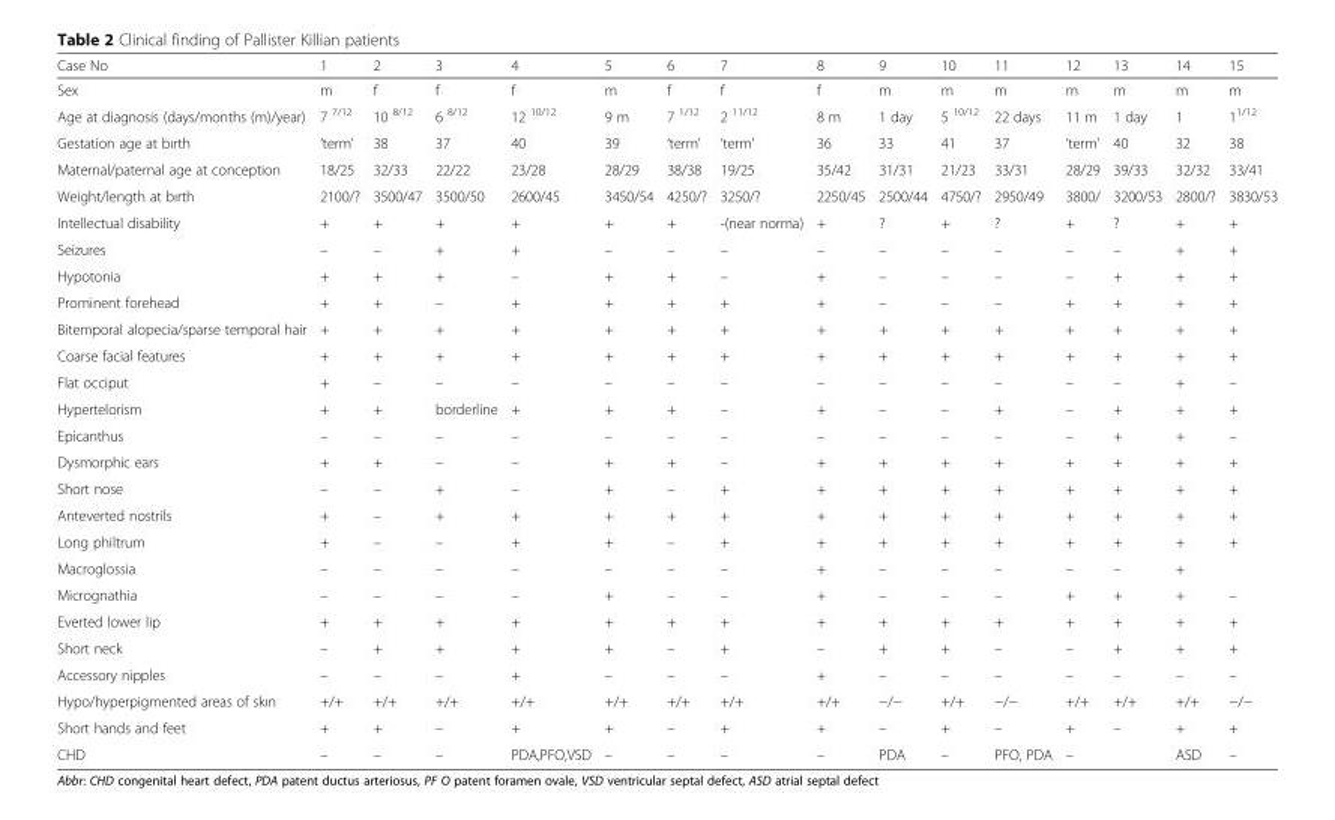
<table><thead><tr><td>Case No</td><td>1</td><td>2</td><td>3</td><td>4</td><td>5</td><td>6</td><td>7</td><td>8</td><td>9</td><td>10</td><td>11</td><td>12</td><td>13</td><td>14</td><td>15</td></tr></thead><tbody><tr><td>Sex</td><td>m</td><td>f</td><td>f</td><td>f</td><td>m</td><td>f</td><td>f</td><td>f</td><td>m</td><td>m</td><td>m</td><td>m</td><td>m</td><td>m</td><td>m</td></tr><tr><td>Age at diagnosis (days/months (m)/year)</td><td>7 <sup>7/12</sup></td><td>10 <sup>8/12</sup></td><td>6 <sup>8/12</sup></td><td>12 <sup>10/12</sup></td><td>9 m</td><td>7 <sup>1/12</sup></td><td>2 <sup>11/12</sup></td><td>8 m</td><td>1 day</td><td>5 <sup>10/12</sup></td><td>22 days</td><td>11 m</td><td>1 day</td><td>1</td><td>1<sup>1/12</sup></td></tr><tr><td>Gestation age at bırth</td><td>‘term’</td><td>38</td><td>37</td><td>40</td><td>39</td><td>‘term’</td><td>‘term’</td><td>36</td><td>33</td><td>41</td><td>37</td><td>‘term’</td><td>40</td><td>32</td><td>38</td></tr><tr><td>Maternal/paternal age at conception</td><td>18/25</td><td>32/33</td><td>22/22</td><td>23/28</td><td>28/29</td><td>38/38</td><td>19/25</td><td>35/42</td><td>31/31</td><td>21/23</td><td>33/31</td><td>28/29</td><td>39/33</td><td>32/32</td><td>33/41</td></tr><tr><td>Weight/length at bırth</td><td>2100/?</td><td>3500/47</td><td>3500/50</td><td>2600/45</td><td>3450/54</td><td>4250/?</td><td>3250/?</td><td>2250/45</td><td>2500/44</td><td>4750/?</td><td>2950/49</td><td>3800/</td><td>3200/53</td><td>2800/?</td><td>3830/53</td></tr><tr><td>Intellectual disability</td><td>+</td><td>+</td><td>+</td><td>+</td><td>+</td><td>+</td><td>-(near norma)</td><td>+</td><td>?</td><td>+</td><td>?</td><td>+</td><td>?</td><td>+</td><td>+</td></tr><tr><td>Seizures</td><td>–</td><td>–</td><td>+</td><td>+</td><td>–</td><td>–</td><td>–</td><td>–</td><td>–</td><td>–</td><td>–</td><td>–</td><td>–</td><td>+</td><td>+</td></tr><tr><td>Hypotonia</td><td>+</td><td>+</td><td>+</td><td>–</td><td>+</td><td>+</td><td>–</td><td>+</td><td>–</td><td>–</td><td>–</td><td>–</td><td>+</td><td>+</td><td>+</td></tr><tr><td>Prominent forehead</td><td>+</td><td>+</td><td>–</td><td>+</td><td>+</td><td>+</td><td>+</td><td>+</td><td>–</td><td>–</td><td>–</td><td>+</td><td>+</td><td>+</td><td>+</td></tr><tr><td>Bitemporal alopecia/sparse temporal hair</td><td>+</td><td>+</td><td>+</td><td>+</td><td>+</td><td>+</td><td>+</td><td>+</td><td>+</td><td>+</td><td>+</td><td>+</td><td>+</td><td>+</td><td>+</td></tr><tr><td>Coarse facial features</td><td>+</td><td>+</td><td>+</td><td>+</td><td>+</td><td>+</td><td>+</td><td>+</td><td>+</td><td>+</td><td>+</td><td>+</td><td>+</td><td>+</td><td>+</td></tr><tr><td>Flat occiput</td><td>+</td><td>–</td><td>–</td><td>–</td><td>–</td><td>–</td><td>–</td><td>–</td><td>–</td><td>–</td><td>–</td><td>–</td><td>–</td><td>+</td><td>–</td></tr><tr><td>Hypertelorism</td><td>+</td><td>+</td><td>borderline</td><td>+</td><td>+</td><td>+</td><td>–</td><td>+</td><td>–</td><td>–</td><td>+</td><td>–</td><td>+</td><td>+</td><td>+</td></tr><tr><td>Epicanthus</td><td>–</td><td>–</td><td>–</td><td>–</td><td>–</td><td>–</td><td>–</td><td>–</td><td>–</td><td>–</td><td>–</td><td>–</td><td>+</td><td>+</td><td>–</td></tr><tr><td>Dysmorphic ears</td><td>+</td><td>+</td><td>–</td><td>–</td><td>+</td><td>+</td><td>–</td><td>+</td><td>+</td><td>+</td><td>+</td><td>+</td><td>+</td><td>+</td><td>+</td></tr><tr><td>Short nose</td><td>–</td><td>–</td><td>+</td><td>–</td><td>+</td><td>–</td><td>+</td><td>+</td><td>+</td><td>+</td><td>+</td><td>+</td><td>+</td><td>+</td><td>+</td></tr><tr><td>Anteverted nostrils</td><td>+</td><td>–</td><td>+</td><td>+</td><td>+</td><td>+</td><td>+</td><td>+</td><td>+</td><td>+</td><td>+</td><td>+</td><td>+</td><td>+</td><td>+</td></tr><tr><td>Long philtrum</td><td>+</td><td>–</td><td>–</td><td>+</td><td>+</td><td>–</td><td>+</td><td>+</td><td>+</td><td>+</td><td>+</td><td>+</td><td>+</td><td>+</td><td>+</td></tr><tr><td>Macroglossia</td><td>–</td><td>–</td><td>–</td><td>–</td><td>–</td><td>–</td><td>–</td><td>+</td><td>–</td><td>–</td><td>–</td><td>–</td><td>–</td><td>+</td><td></td></tr><tr><td>Micrognathia</td><td>–</td><td>–</td><td>–</td><td>–</td><td>+</td><td>–</td><td>–</td><td>+</td><td>–</td><td>–</td><td>–</td><td>+</td><td>+</td><td>+</td><td>–</td></tr><tr><td>Everted lower lip</td><td>+</td><td>+</td><td>+</td><td>+</td><td>+</td><td>+</td><td>+</td><td>+</td><td>+</td><td>+</td><td>+</td><td>+</td><td>+</td><td>+</td><td>+</td></tr><tr><td>Short neck</td><td>–</td><td>+</td><td>+</td><td>+</td><td>+</td><td>–</td><td>+</td><td>–</td><td>+</td><td>+</td><td>–</td><td>–</td><td>+</td><td>+</td><td>+</td></tr><tr><td>Accessory nipples</td><td>–</td><td>–</td><td>–</td><td>+</td><td>–</td><td>–</td><td>–</td><td>+</td><td>–</td><td>–</td><td>–</td><td>–</td><td>–</td><td>–</td><td>–</td></tr><tr><td>Hypo/hyperpigmented areas of skın</td><td>+/+</td><td>+/+</td><td>+/+</td><td>+/+</td><td>+/+</td><td>+/+</td><td>+/+</td><td>+/+</td><td>−/−</td><td>+/+</td><td>−/−</td><td>+/+</td><td>+/+</td><td>+/+</td><td>−/−</td></tr><tr><td>Short hands and feet</td><td>+</td><td>+</td><td>–</td><td>+</td><td>+</td><td>–</td><td>+</td><td>+</td><td>–</td><td>+</td><td>–</td><td>+</td><td>–</td><td>+</td><td>+</td></tr><tr><td>CHD</td><td>–</td><td>–</td><td>–</td><td>PDA,PFO,VSD</td><td>–</td><td>–</td><td>–</td><td>–</td><td>PDA</td><td>–</td><td>PFO, PDA</td><td>–</td><td></td><td>ASD</td><td>–</td></tr></tbody></table>